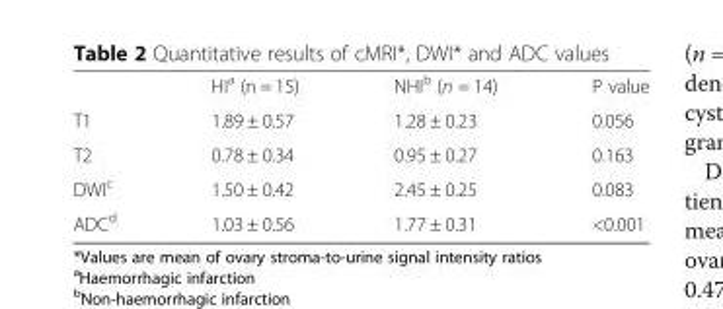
<table><thead><tr><td></td><td>HI<sup>a</sup> (n = 15)</td><td>NHI<sup>b</sup> (n = 14)</td><td>P value</td></tr></thead><tbody><tr><td>T1</td><td>1.89 ± 0.57</td><td>1.28 ± 0.23</td><td>0.056</td></tr><tr><td>T2</td><td>0.78 ± 0.34</td><td>0.95 ± 0.27</td><td>0.163</td></tr><tr><td>DWI<sup>c</sup></td><td>1.50 ± 0.42</td><td>2.45 ± 0.25</td><td>0.083</td></tr><tr><td>ADC<sup>d</sup></td><td>1.03 ± 0.56</td><td>1.77 ± 0.31</td><td>&lt;0.001</td></tr></tbody></table>